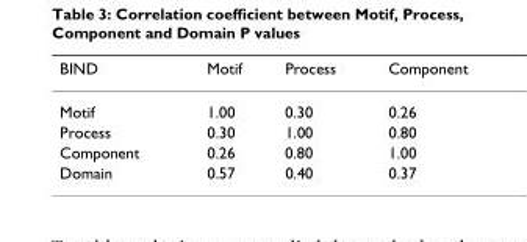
<table><thead><tr><td>BIND</td><td>Motif</td><td>Process</td><td>Component</td></tr></thead><tbody><tr><td>Motif</td><td>1.00</td><td>0.30</td><td>0.26</td></tr><tr><td>Process</td><td>0.30</td><td>1.00</td><td>0.80</td></tr><tr><td>Component</td><td>0.26</td><td>0.80</td><td>1.00</td></tr><tr><td>Domain</td><td>0.57</td><td>0.40</td><td>0.37</td></tr></tbody></table>